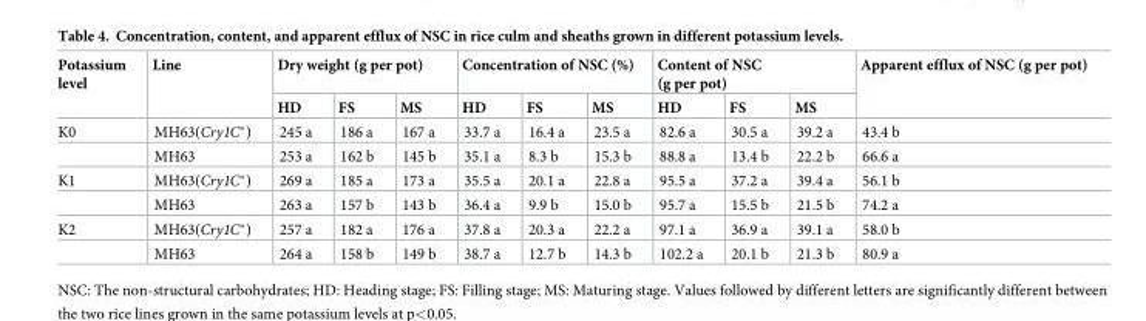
<table><thead><tr><td rowspan="2">Potassium level</td><td rowspan="2">Line</td><td colspan="3">Dry weight (g per pot)</td><td colspan="3">Concentration of NSC (%)</td><td colspan="3">Content of NSC (g per pot)</td><td rowspan="2">Apparent efflux of NSC (g per pot)</td></tr><tr><td>HD</td><td>FS</td><td>MS</td><td>HD</td><td>FS</td><td>MS</td><td>HD</td><td>FS</td><td>MS</td></tr></thead><tbody><tr><td rowspan="2">K0</td><td>MH63(Cry1C*)</td><td>245 a</td><td>186 a</td><td>167 a</td><td>33.7 a</td><td>16.4 a</td><td>23.5 a</td><td>82.6 a</td><td>30.5 a</td><td>39.2 a</td><td>43.4 b</td></tr><tr><td>MH63</td><td>253 a</td><td>162 b</td><td>145 b</td><td>35.1 a</td><td>8.3 b</td><td>15.3 b</td><td>88.8 a</td><td>13.4 b</td><td>22.2 b</td><td>66.6 a</td></tr><tr><td rowspan="2">K1</td><td>MH63(Cry1C*)</td><td>269 a</td><td>185 a</td><td>173 a</td><td>35.5 a</td><td>20.1 a</td><td>22.8 a</td><td>95.5 a</td><td>37.2 a</td><td>39.4 a</td><td>56.1 b</td></tr><tr><td>MH63</td><td>263 a</td><td>157 b</td><td>143 b</td><td>36.4 a</td><td>9.9 b</td><td>15.0 b</td><td>95.7 a</td><td>15.5 b</td><td>21.5 b</td><td>74.2 a</td></tr><tr><td rowspan="2">K2</td><td>MH63(Cry1C*)</td><td>257 a</td><td>182 a</td><td>176 a</td><td>37.8 a</td><td>20.3 a</td><td>22.2 a</td><td>97.1 a</td><td>36.9 a</td><td>39.1 a</td><td>58.0 b</td></tr><tr><td>MH63</td><td>264 a</td><td>158 b</td><td>149 b</td><td>38.7 a</td><td>12.7 b</td><td>14.3 b</td><td>102.2 a</td><td>20.1 b</td><td>21.3 b</td><td>80.9 a</td></tr></tbody></table>